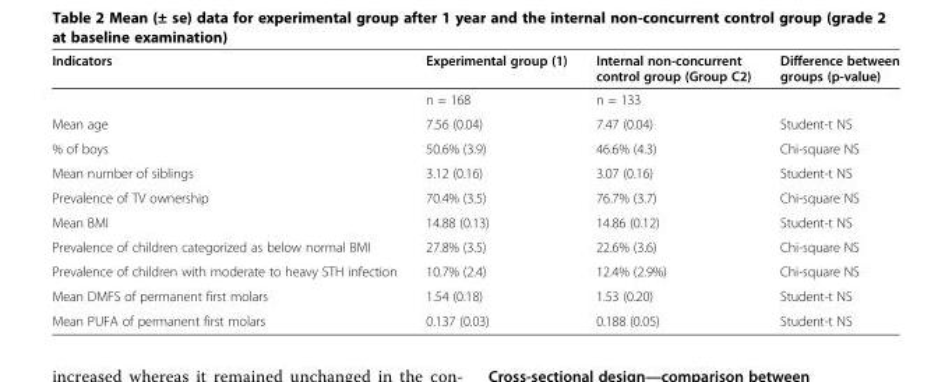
<table><thead><tr><td>Indicators</td><td>Experimental group (1)</td><td>Internal non-concurrent control group (Group C2)</td><td>Difference between groups (p-value)</td></tr></thead><tbody><tr><td></td><td>n = 168</td><td>n = 133</td><td></td></tr><tr><td>Mean age</td><td>7.56 (0.04)</td><td>7.47 (0.04)</td><td>Student-t NS</td></tr><tr><td>% of boys</td><td>50.6% (3.9)</td><td>46.6% (4.3)</td><td>Chi-square NS</td></tr><tr><td>Mean number of siblings</td><td>3.12 (0.16)</td><td>3.07 (0.16)</td><td>Student-t NS</td></tr><tr><td>Prevalence of TV ownership</td><td>70.4% (3.5)</td><td>76.7% (3.7)</td><td>Chi-square NS</td></tr><tr><td>Mean BMI</td><td>14.88 (0.13)</td><td>14.86 (0.12)</td><td>Student-t NS</td></tr><tr><td>Prevalence of children categorized as below normal BMI</td><td>27.8% (3.5)</td><td>22.6% (3.6)</td><td>Chi-square NS</td></tr><tr><td>Prevalence of children with moderate to heavy STH infection</td><td>10.7% (2.4)</td><td>12.4% (2.9%)</td><td>Chi-square NS</td></tr><tr><td>Mean DMFS of permanent first molars</td><td>1.54 (0.18)</td><td>1.53 (0.20)</td><td>Student-t NS</td></tr><tr><td>Mean PUFA of permanent first molars</td><td>0.137 (0.03)</td><td>0.188 (0.05)</td><td>Student-t NS</td></tr></tbody></table>